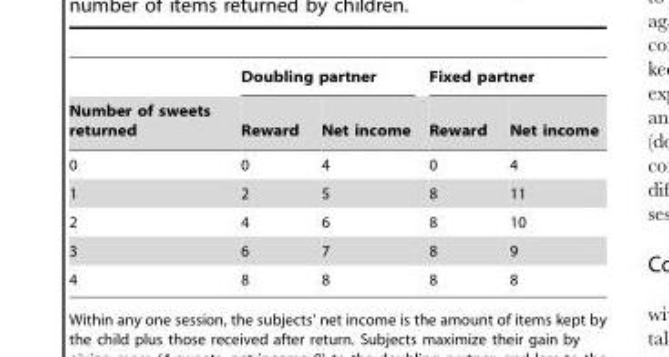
<table><thead><tr><td rowspan="2">Number of sweets returned</td><td colspan="2">Doubling partner</td><td colspan="2">Fixed partner</td></tr><tr><td>Reward</td><td>Net income</td><td>Reward</td><td>Net income</td></tr></thead><tbody><tr><td>0</td><td>0</td><td>4</td><td>0</td><td>4</td></tr><tr><td>1</td><td>2</td><td>5</td><td>8</td><td>11</td></tr><tr><td>2</td><td>4</td><td>6</td><td>8</td><td>10</td></tr><tr><td>3</td><td>6</td><td>7</td><td>8</td><td>9</td></tr><tr><td>4</td><td>8</td><td>8</td><td>8</td><td>8</td></tr></tbody></table>